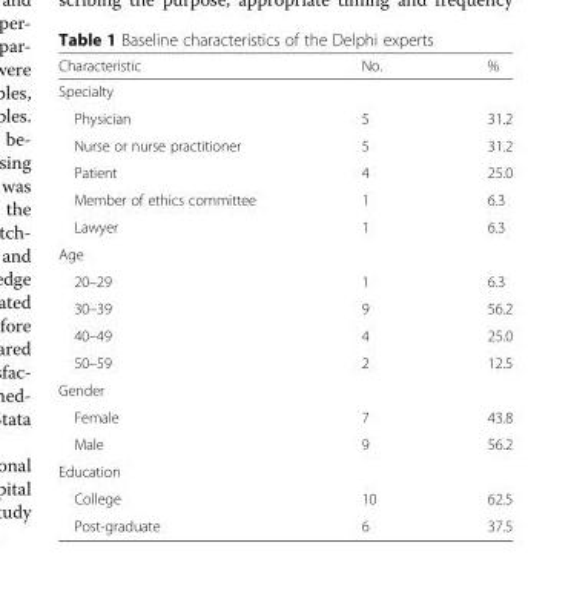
<table><thead><tr><td>Characteristic</td><td>No.</td><td>%</td></tr></thead><tbody><tr><td colspan="3">Specialty</td></tr><tr><td>Physician</td><td>5</td><td>31.2</td></tr><tr><td>Nurse or nurse practitioner</td><td>5</td><td>31.2</td></tr><tr><td>Patient</td><td>4</td><td>25.0</td></tr><tr><td>Member of ethics committee</td><td>1</td><td>6.3</td></tr><tr><td>Lawyer</td><td>1</td><td>6.3</td></tr><tr><td colspan="3">Age</td></tr><tr><td>20–29</td><td>1</td><td>6.3</td></tr><tr><td>30–39</td><td>9</td><td>56.2</td></tr><tr><td>40–49</td><td>4</td><td>25.0</td></tr><tr><td>50–59</td><td>2</td><td>12.5</td></tr><tr><td colspan="3">Gender</td></tr><tr><td>Female</td><td>7</td><td>43.8</td></tr><tr><td>Male</td><td>9</td><td>56.2</td></tr><tr><td colspan="3">Education</td></tr><tr><td>College</td><td>10</td><td>62.5</td></tr><tr><td>Post-graduate</td><td>6</td><td>37.5</td></tr></tbody></table>